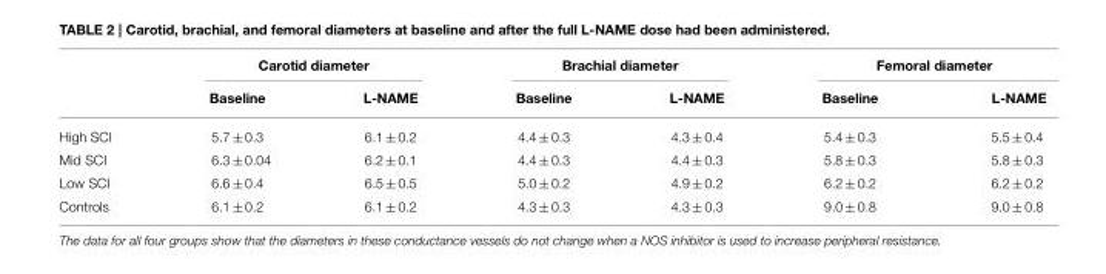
<table><thead><tr><td rowspan="2"></td><td colspan="2">Carotid diameter</td><td colspan="2">Brachial diameter</td><td colspan="2">Femoral diameter</td></tr><tr><td>Baseline</td><td>L-NAME</td><td>Baseline</td><td>L-NAME</td><td>Baseline</td><td>L-NAME</td></tr></thead><tbody><tr><td>High SCI</td><td>5.7 ± 0.3</td><td>6.1 ± 0.2</td><td>4.4 ± 0.3</td><td>4.3 ± 0.4</td><td>5.4 ± 0.3</td><td>5.5 ± 0.4</td></tr><tr><td>Mid SCI</td><td>6.3 ± 0.04</td><td>6.2 ± 0.1</td><td>4.4 ± 0.3</td><td>4.4 ± 0.3</td><td>5.8 ± 0.3</td><td>5.8 ± 0.3</td></tr><tr><td>Low SCI</td><td>6.6 ± 0.4</td><td>6.5 ± 0.5</td><td>5.0 ± 0.2</td><td>4.9 ± 0.2</td><td>6.2 ± 0.2</td><td>6.2 ± 0.2</td></tr><tr><td>Controls</td><td>6.1 ± 0.2</td><td>6.1 ± 0.2</td><td>4.3 ± 0.3</td><td>4.3 ± 0.3</td><td>9.0 ± 0.8</td><td>9.0 ± 0.8</td></tr></tbody></table>